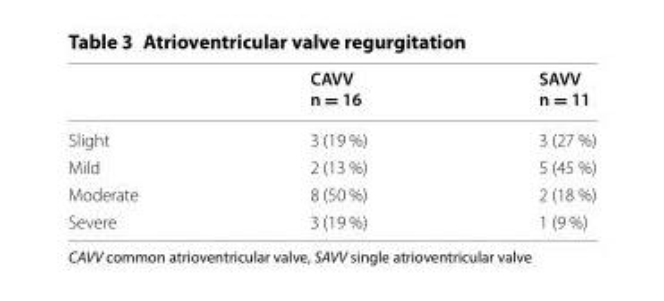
<table><thead><tr><td></td><td>CAVV n = 16</td><td>SAVV n = 11</td></tr></thead><tbody><tr><td>Slight</td><td>3 (19 %)</td><td>3 (27 %)</td></tr><tr><td>Mild</td><td>2 (13 %)</td><td>5 (45 %)</td></tr><tr><td>Moderate</td><td>8 (50 %)</td><td>2 (18 %)</td></tr><tr><td>Severe</td><td>3 (19 %)</td><td>1 (9 %)</td></tr></tbody></table>